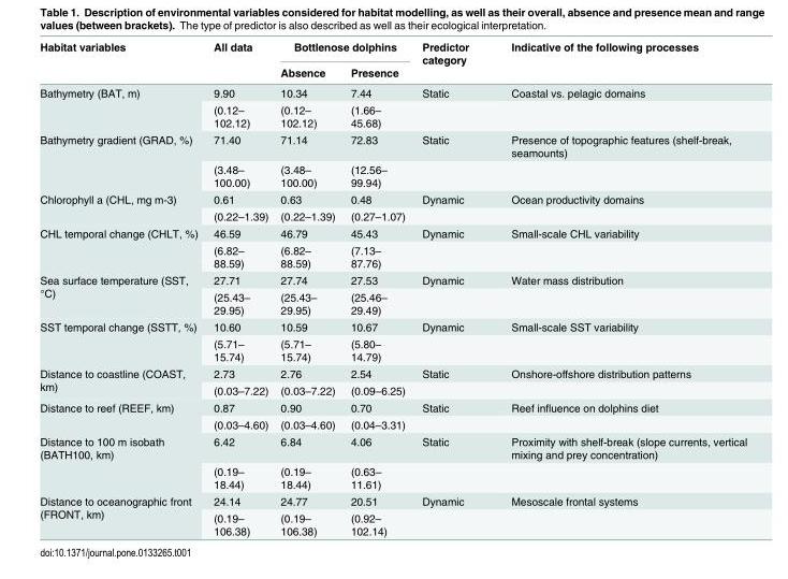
<table><thead><tr><td rowspan="2">Habitat variables</td><td rowspan="2">All data</td><td colspan="2">Bottlenose dolphins</td><td rowspan="2">Predictor category</td><td rowspan="2">Indicative of the following processes</td></tr><tr><td>Absence</td><td>Presence</td></tr></thead><tbody><tr><td rowspan="2">Bathymetry (BAT, m)</td><td>9.90</td><td>10.34</td><td>7.44</td><td>Static</td><td>Coastal vs. pelagic domains</td></tr><tr><td>(0.12– 102.12)</td><td>(0.12– 102.12)</td><td>(1.66– 45.68)</td><td></td><td></td></tr><tr><td rowspan="2">Bathymetry gradient (GRAD, %)</td><td>71.40</td><td>71.14</td><td>72.83</td><td>Static</td><td>Presence of topographic features (shelf-break, seamounts)</td></tr><tr><td>(3.48– 100.00)</td><td>(3.48– 100.00)</td><td>(12.56– 99.94)</td><td></td><td></td></tr><tr><td rowspan="2">Chlorophyll a (CHL, mg m-3)</td><td>0.61</td><td>0.63</td><td>0.48</td><td>Dynamic</td><td>Ocean productivity domains</td></tr><tr><td>(0.22–1.39)</td><td>(0.22–1.39)</td><td>(0.27–1.07)</td><td></td><td></td></tr><tr><td rowspan="2">CHL temporal change (CHLT, %)</td><td>46.59</td><td>46.79</td><td>45.43</td><td>Dynamic</td><td>Small-scale CHL variability</td></tr><tr><td>(6.82– 88.59)</td><td>(6.82– 88.59)</td><td>(7.13– 87.76)</td><td></td><td></td></tr><tr><td rowspan="2">Sea surface temperature (SST, °C)</td><td>27.71</td><td>27.74</td><td>27.53</td><td>Dynamic</td><td>Water mass distribution</td></tr><tr><td>(25.43– 29.95)</td><td>(25.43– 29.95)</td><td>(25.46– 29.49)</td><td></td><td></td></tr><tr><td rowspan="2">SST temporal change (SSTT, %)</td><td>10.60</td><td>10.59</td><td>10.67</td><td>Dynamic</td><td>Small-scale SST variability</td></tr><tr><td>(5.71– 15.74)</td><td>(5.71– 15.74)</td><td>(5.80– 14.79)</td><td></td><td></td></tr><tr><td rowspan="2">Distance to coastline (COAST, km)</td><td>2.73</td><td>2.76</td><td>2.54</td><td>Static</td><td>Onshore-offshore distribution patterns</td></tr><tr><td>(0.03–7.22)</td><td>(0.03–7.22)</td><td>(0.09–6.25)</td><td></td><td></td></tr><tr><td rowspan="2">Distance to reef (REEF, km)</td><td>0.87</td><td>0.90</td><td>0.70</td><td>Static</td><td>Reef influence on dolphins diet</td></tr><tr><td>(0.03–4.60)</td><td>(0.03–4.60)</td><td>(0.04–3.31)</td><td></td><td></td></tr><tr><td rowspan="2">Distance to 100 m isobath (BATH100, km)</td><td>6.42</td><td>6.84</td><td>4.06</td><td>Static</td><td>Proximity with shelf-break (slope currents, vertical mixing and prey concentration)</td></tr><tr><td>(0.19– 18.44)</td><td>(0.19– 18.44)</td><td>(0.63– 11.61)</td><td></td><td></td></tr><tr><td rowspan="2">Distance to oceanographic front (FRONT, km)</td><td>24.14</td><td>24.77</td><td>20.51</td><td>Dynamic</td><td>Mesoscale frontal systems</td></tr><tr><td>(0.19– 106.38)</td><td>(0.19– 106.38)</td><td>(0.92– 102.14)</td><td></td><td></td></tr></tbody></table>